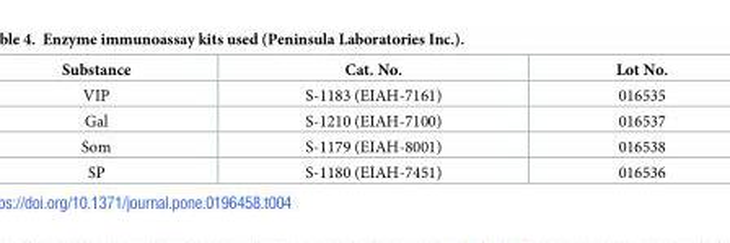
<table><thead><tr><td>Substance</td><td>Cat. No.</td><td>Lot No.</td></tr></thead><tbody><tr><td>VIP</td><td>S-1183 (EIAH-7161)</td><td>016535</td></tr><tr><td>Gal</td><td>S-1210 (EIAH-7100)</td><td>016537</td></tr><tr><td>Som</td><td>S-1179 (EIAH-8001)</td><td>016538</td></tr><tr><td>SP</td><td>S-1180 (EIAH-7451)</td><td>016536</td></tr></tbody></table>